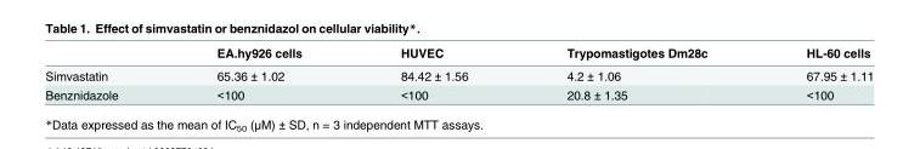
<table><thead><tr><td></td><td>EA.hy926 cells</td><td>HUVEC</td><td>Trypomastigotes Dm28c</td><td>HL-60 cells</td></tr></thead><tbody><tr><td>Simvastatin</td><td>65.36 ± 1.02</td><td>84.42 ± 1.56</td><td>4.2 ± 1.06</td><td>67.95 ± 1.11</td></tr><tr><td>Benznidazole</td><td>&lt;100</td><td>&lt;100</td><td>20.8 ± 1.35</td><td>&lt;100</td></tr></tbody></table>